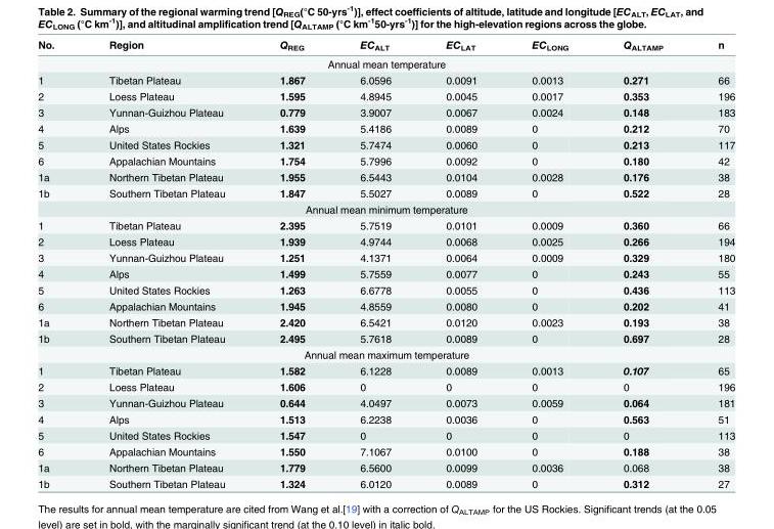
<table><thead><tr><td>No.</td><td>Region</td><td>Q<sub>REG</sub></td><td>EC<sub>ALT</sub></td><td>EC<sub>LAT</sub></td><td>EC<sub>LONG</sub></td><td>Q<sub>ALTAMP</sub></td><td>n</td></tr></thead><tbody><tr><td colspan="8">Annual mean temperature</td></tr><tr><td>1</td><td>Tibetan Plateau</td><td>1.867</td><td>6.0596</td><td>0.0091</td><td>0.0013</td><td>0.271</td><td>66</td></tr><tr><td>2</td><td>Loess Plateau</td><td>1.595</td><td>4.8945</td><td>0.0045</td><td>0.0017</td><td>0.353</td><td>196</td></tr><tr><td>3</td><td>Yunnan-Guizhou Plateau</td><td>0.779</td><td>3.9007</td><td>0.0067</td><td>0.0024</td><td>0.148</td><td>183</td></tr><tr><td>4</td><td>Alps</td><td>1.639</td><td>5.4186</td><td>0.0089</td><td>0</td><td>0.212</td><td>70</td></tr><tr><td>5</td><td>United States Rockies</td><td>1.321</td><td>5.7474</td><td>0.0060</td><td>0</td><td>0.213</td><td>117</td></tr><tr><td>6</td><td>Appalachian Mountains</td><td>1.754</td><td>5.7996</td><td>0.0092</td><td>0</td><td>0.180</td><td>42</td></tr><tr><td>1a</td><td>Northern Tibetan Plateau</td><td>1.955</td><td>6.5443</td><td>0.0104</td><td>0.0028</td><td>0.176</td><td>38</td></tr><tr><td>1b</td><td>Southern Tibetan Plateau</td><td>1.847</td><td>5.5027</td><td>0.0089</td><td>0</td><td>0.522</td><td>28</td></tr><tr><td colspan="8">Annual mean minimum temperature</td></tr><tr><td>1</td><td>Tibetan Plateau</td><td>2.395</td><td>5.7519</td><td>0.0101</td><td>0.0009</td><td>0.360</td><td>66</td></tr><tr><td>2</td><td>Loess Plateau</td><td>1.939</td><td>4.9744</td><td>0.0068</td><td>0.0025</td><td>0.266</td><td>194</td></tr><tr><td>3</td><td>Yunnan-Guizhou Plateau</td><td>1.251</td><td>4.1371</td><td>0.0064</td><td>0.0009</td><td>0.329</td><td>180</td></tr><tr><td>4</td><td>Alps</td><td>1.499</td><td>5.7559</td><td>0.0077</td><td>0</td><td>0.243</td><td>55</td></tr><tr><td>5</td><td>United States Rockies</td><td>1.263</td><td>6.6778</td><td>0.0055</td><td>0</td><td>0.436</td><td>113</td></tr><tr><td>6</td><td>Appalachian Mountains</td><td>1.945</td><td>4.8559</td><td>0.0080</td><td>0</td><td>0.202</td><td>41</td></tr><tr><td>1a</td><td>Northern Tibetan Plateau</td><td>2.420</td><td>6.5421</td><td>0.0120</td><td>0.0023</td><td>0.193</td><td>38</td></tr><tr><td>1b</td><td>Southern Tibetan Plateau</td><td>2.495</td><td>5.7618</td><td>0.0089</td><td>0</td><td>0.697</td><td>28</td></tr><tr><td colspan="8">Annual mean maximum temperature</td></tr><tr><td>1</td><td>Tibetan Plateau</td><td>1.582</td><td>6.1228</td><td>0.0089</td><td>0.0013</td><td>0.107</td><td>65</td></tr><tr><td>2</td><td>Loess Plateau</td><td>1.606</td><td>0</td><td>0</td><td>0</td><td>0</td><td>196</td></tr><tr><td>3</td><td>Yunnan-Guizhou Plateau</td><td>0.644</td><td>4.0497</td><td>0.0073</td><td>0.0059</td><td>0.064</td><td>181</td></tr><tr><td>4</td><td>Alps</td><td>1.513</td><td>6.2238</td><td>0.0036</td><td>0</td><td>0.563</td><td>51</td></tr><tr><td>5</td><td>United States Rockies</td><td>1.547</td><td>0</td><td>0</td><td>0</td><td>0</td><td>113</td></tr><tr><td>6</td><td>Appalachian Mountains</td><td>1.550</td><td>7.1067</td><td>0.0100</td><td>0</td><td>0.188</td><td>38</td></tr><tr><td>1a</td><td>Northern Tibetan Plateau</td><td>1.779</td><td>6.5600</td><td>0.0099</td><td>0.0036</td><td>0.068</td><td>38</td></tr><tr><td>1b</td><td>Southern Tibetan Plateau</td><td>1.324</td><td>6.0120</td><td>0.0089</td><td>0</td><td>0.312</td><td>27</td></tr></tbody></table>